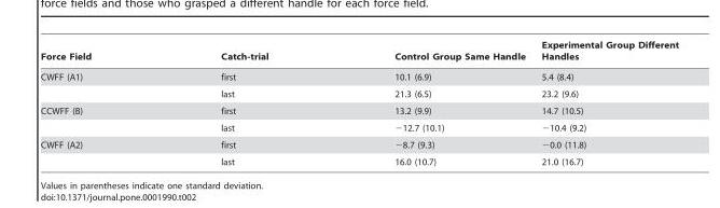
<table><thead><tr><td>Force Field</td><td>Catch-trial</td><td>Control Group Same Handle</td><td>Experimental Group Different Handles</td></tr></thead><tbody><tr><td rowspan="2">CWFF (A1)</td><td>first</td><td>10.1 (6.9)</td><td>5.4 (8.4)</td></tr><tr><td>last</td><td>21.3 (6.5)</td><td>23.2 (9.6)</td></tr><tr><td rowspan="2">CCWFF (B)</td><td>first</td><td>13.2 (9.9)</td><td>14.7 (10.5)</td></tr><tr><td>last</td><td>−12.7 (10.1)</td><td>−10.4 (9.2)</td></tr><tr><td rowspan="2">CWFF (A2)</td><td>first</td><td>−8.7 (9.3)</td><td>−0.0 (11.8)</td></tr><tr><td>last</td><td>16.0 (10.7)</td><td>21.0 (16.7)</td></tr></tbody></table>